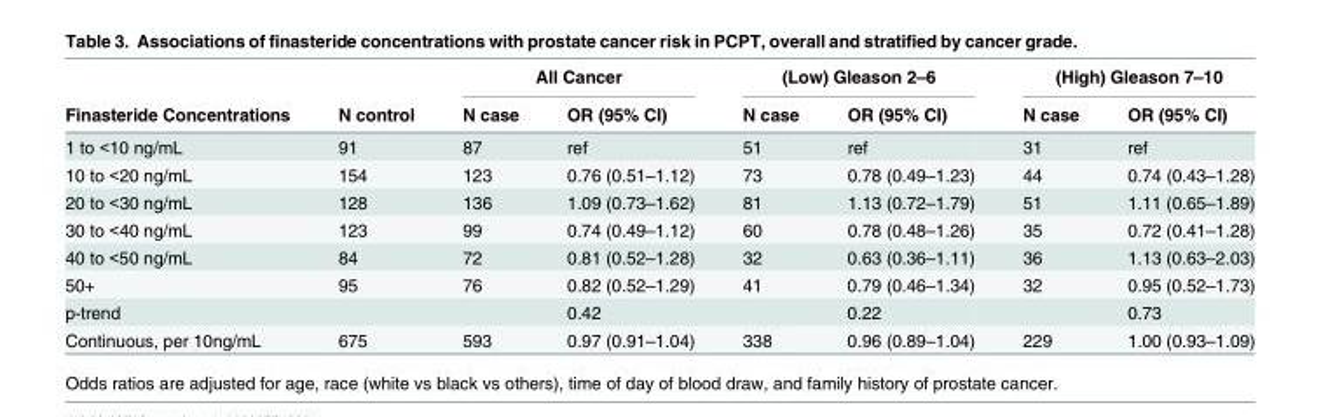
<table><thead><tr><td rowspan="2">Finasteride Concentrations</td><td rowspan="2">N control</td><td colspan="2">All Cancer</td><td colspan="2">(Low) Gleason 2–6</td><td colspan="2">(High) Gleason 7–10</td></tr><tr><td>N case</td><td>OR (95% CI)</td><td>N case</td><td>OR (95% CI)</td><td>N case</td><td>OR (95% CI)</td></tr></thead><tbody><tr><td>1 to &lt;10 ng/mL</td><td>91</td><td>87</td><td>ref</td><td>51</td><td>ref</td><td>31</td><td>ref</td></tr><tr><td>10 to &lt;20 ng/mL</td><td>154</td><td>123</td><td>0.76 (0.51–1.12)</td><td>73</td><td>0.78 (0.49–1.23)</td><td>44</td><td>0.74 (0.43–1.28)</td></tr><tr><td>20 to &lt;30 ng/mL</td><td>128</td><td>136</td><td>1.09 (0.73–1.62)</td><td>81</td><td>1.13 (0.72–1.79)</td><td>51</td><td>1.11 (0.65–1.89)</td></tr><tr><td>30 to &lt;40 ng/mL</td><td>123</td><td>99</td><td>0.74 (0.49–1.12)</td><td>60</td><td>0.78 (0.48–1.26)</td><td>35</td><td>0.72 (0.41–1.28)</td></tr><tr><td>40 to &lt;50 ng/mL</td><td>84</td><td>72</td><td>0.81 (0.52–1.28)</td><td>32</td><td>0.63 (0.36–1.11)</td><td>36</td><td>1.13 (0.63–2.03)</td></tr><tr><td>50+</td><td>95</td><td>76</td><td>0.82 (0.52–1.29)</td><td>41</td><td>0.79 (0.46–1.34)</td><td>32</td><td>0.95 (0.52–1.73)</td></tr><tr><td>p-trend</td><td></td><td></td><td>0.42</td><td></td><td>0.22</td><td></td><td>0.73</td></tr><tr><td>Continuous, per 10ng/mL</td><td>675</td><td>593</td><td>0.97 (0.91–1.04)</td><td>338</td><td>0.96 (0.89–1.04)</td><td>229</td><td>1.00 (0.93–1.09)</td></tr></tbody></table>